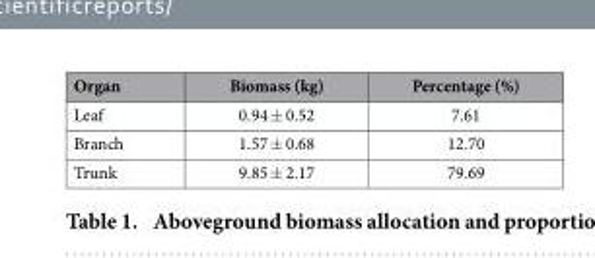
<table><thead><tr><td>Organ</td><td>Biomass (kg)</td><td>Percentage (%)</td></tr></thead><tbody><tr><td>Leaf</td><td>0.94 ± 0.52</td><td>7.61</td></tr><tr><td>Branch</td><td>1.57 ± 0.68</td><td>12.70</td></tr><tr><td>Trunk</td><td>9.85 ± 2.17</td><td>79.69</td></tr></tbody></table>